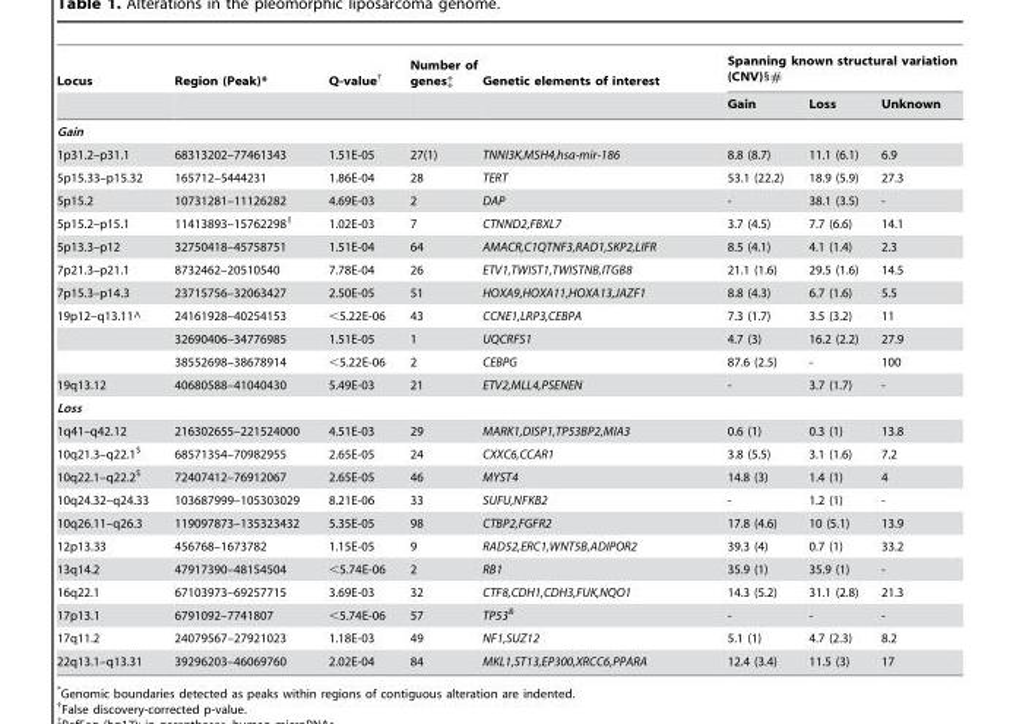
<table><thead><tr><td rowspan="2">Locus</td><td rowspan="2">Region (Peak)*</td><td rowspan="2">Q-value†</td><td rowspan="2">Number of genes‡</td><td rowspan="2">Genetic elements of interest</td><td colspan="3">Spanning known structural variation (CNV)§#</td></tr><tr><td>Gain</td><td>Loss</td><td>Unknown</td></tr></thead><tbody><tr><td colspan="8">Gain</td></tr><tr><td>1p31.2–p31.1</td><td>68313202–77461343</td><td>1.51E-05</td><td>27(1)</td><td>TNNI3K,MSH4,hsa-mir-186</td><td>8.8 (8.7)</td><td>11.1 (6.1)</td><td>6.9</td></tr><tr><td>5p15.33–p15.32</td><td>165712–5444231</td><td>1.86E-04</td><td>28</td><td>TERT</td><td>53.1 (22.2)</td><td>18.9 (5.9)</td><td>27.3</td></tr><tr><td>5p15.2</td><td>10731281–11126282</td><td>4.69E-03</td><td>2</td><td>DAP</td><td>-</td><td>38.1 (3.5)</td><td>-</td></tr><tr><td>5p15.2–p15.1</td><td>11413893–15762298∥</td><td>1.02E-03</td><td>7</td><td>CTNND2,FBXL7</td><td>3.7 (4.5)</td><td>7.7 (6.6)</td><td>14.1</td></tr><tr><td>5p13.3–p12</td><td>32750418–45758751</td><td>1.51E-04</td><td>64</td><td>AMACR,C1QTNF3,RAD1,SKP2,LIFR</td><td>8.5 (4.1)</td><td>4.1 (1.4)</td><td>2.3</td></tr><tr><td>7p21.3–p21.1</td><td>8732462–20510540</td><td>7.78E-04</td><td>26</td><td>ETV1,TWIST1,TWISTNB,ITGB8</td><td>21.1 (1.6)</td><td>29.5 (1.6)</td><td>14.5</td></tr><tr><td>7p15.3–p14.3</td><td>23715756–32063427</td><td>2.50E-05</td><td>51</td><td>HOXA9,HOXA11,HOXA13,JAZF1</td><td>8.8 (4.3)</td><td>6.7 (1.6)</td><td>5.5</td></tr><tr><td rowspan="3">19p12–q13.11^</td><td>24161928–40254153</td><td>&lt;5.22E-06</td><td>43</td><td>CCNE1,LRP3,CEBPA</td><td>7.3 (1.7)</td><td>3.5 (3.2)</td><td>11</td></tr><tr><td>32690406–34776985</td><td>1.51E-05</td><td>1</td><td>UQCRFS1</td><td>4.7 (3)</td><td>16.2 (2.2)</td><td>27.9</td></tr><tr><td>38552698–38678914</td><td>&lt;5.22E-06</td><td>2</td><td>CEBPG</td><td>87.6 (2.5)</td><td>-</td><td>100</td></tr><tr><td>19q13.12</td><td>40680588–41040430</td><td>5.49E-03</td><td>21</td><td>ETV2,MLL4,PSENEN</td><td>-</td><td>3.7 (1.7)</td><td>-</td></tr><tr><td colspan="8">Loss</td></tr><tr><td>1q41–q42.12</td><td>216302655–221524000</td><td>4.51E-03</td><td>29</td><td>MARK1,DISP1,TP53BP2,MIA3</td><td>0.6 (1)</td><td>0.3 (1)</td><td>13.8</td></tr><tr><td>10q21.3–q22.1$</td><td>68571354–70982955</td><td>2.65E-05</td><td>24</td><td>CXXC6,CCAR1</td><td>3.8 (5.5)</td><td>3.1 (1.6)</td><td>7.2</td></tr><tr><td>10q22.1–q22.2$</td><td>72407412–76912067</td><td>2.65E-05</td><td>46</td><td>MYST4</td><td>14.8 (3)</td><td>1.4 (1)</td><td>4</td></tr><tr><td>10q24.32–q24.33</td><td>103687999–105303029</td><td>8.21E-06</td><td>33</td><td>SUFU,NFKB2</td><td>-</td><td>1.2 (1)</td><td>-</td></tr><tr><td>10q26.11–q26.3</td><td>119097873–135323432</td><td>5.35E-05</td><td>98</td><td>CTBP2,FGFR2</td><td>17.8 (4.6)</td><td>10 (5.1)</td><td>13.9</td></tr><tr><td>12p13.33</td><td>456768–1673782</td><td>1.15E-05</td><td>9</td><td>RAD52,ERC1,WNT5B,ADIPOR2</td><td>39.3 (4)</td><td>0.7 (1)</td><td>33.2</td></tr><tr><td>13q14.2</td><td>47917390–48154504</td><td>&lt;5.74E-06</td><td>2</td><td>RB1</td><td>35.9 (1)</td><td>35.9 (1)</td><td>-</td></tr><tr><td>16q22.1</td><td>67103973–69257715</td><td>3.69E-03</td><td>32</td><td>CTF8,CDH1,CDH3,FUK,NQO1</td><td>14.3 (5.2)</td><td>31.1 (2.8)</td><td>21.3</td></tr><tr><td>17p13.1</td><td>6791092–7741807</td><td>&lt;5.74E-06</td><td>57</td><td>TP53&amp;</td><td>-</td><td>-</td><td>-</td></tr><tr><td>17q11.2</td><td>24079567–27921023</td><td>1.18E-03</td><td>49</td><td>NF1,SUZ12</td><td>5.1 (1)</td><td>4.7 (2.3)</td><td>8.2</td></tr><tr><td>22q13.1–q13.31</td><td>39296203–46069760</td><td>2.02E-04</td><td>84</td><td>MKL1,ST13,EP300,XRCC6,PPARA</td><td>12.4 (3.4)</td><td>11.5 (3)</td><td>17</td></tr></tbody></table>